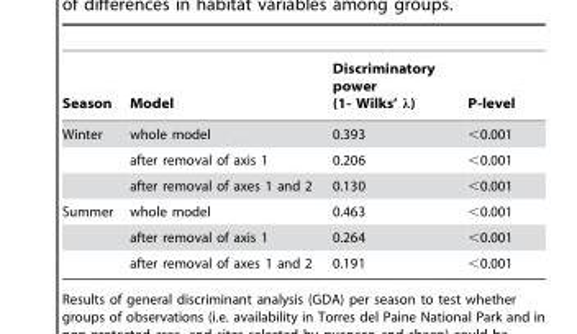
<table><thead><tr><td>Season</td><td>Model</td><td>Discriminatory power (1- Wilks’ λ)</td><td>P-level</td></tr></thead><tbody><tr><td rowspan="3">Winter</td><td>whole model</td><td>0.393</td><td>&lt;0.001</td></tr><tr><td>after removal of axis 1</td><td>0.206</td><td>&lt;0.001</td></tr><tr><td>after removal of axes 1 and 2</td><td>0.130</td><td>&lt;0.001</td></tr><tr><td rowspan="3">Summer</td><td>whole model</td><td>0.463</td><td>&lt;0.001</td></tr><tr><td>after removal of axis 1</td><td>0.264</td><td>&lt;0.001</td></tr><tr><td>after removal of axes 1 and 2</td><td>0.191</td><td>&lt;0.001</td></tr></tbody></table>